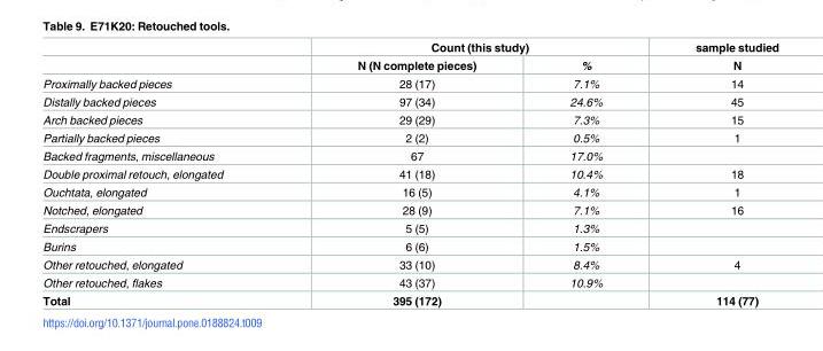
<table><thead><tr><td rowspan="2"></td><td colspan="2">Count (this study)</td><td rowspan="2">sample studied N</td></tr><tr><td>N (N complete pieces)</td><td>%</td></tr></thead><tbody><tr><td>Proximally backed pieces</td><td>28 (17)</td><td>7.1%</td><td>14</td></tr><tr><td>Distally backed pieces</td><td>97 (34)</td><td>24.6%</td><td>45</td></tr><tr><td>Arch backed pieces</td><td>29 (29)</td><td>7.3%</td><td>15</td></tr><tr><td>Partially backed pieces</td><td>2 (2)</td><td>0.5%</td><td>1</td></tr><tr><td>Backed fragments, miscellaneous</td><td>67</td><td>17.0%</td><td></td></tr><tr><td>Double proximal retouch, elongated</td><td>41 (18)</td><td>10.4%</td><td>18</td></tr><tr><td>Ouchtata, elongated</td><td>16 (5)</td><td>4.1%</td><td>1</td></tr><tr><td>Notched, elongated</td><td>28 (9)</td><td>7.1%</td><td>16</td></tr><tr><td>Endscrapers</td><td>5 (5)</td><td>1.3%</td><td></td></tr><tr><td>Burins</td><td>6 (6)</td><td>1.5%</td><td></td></tr><tr><td>Other retouched, elongated</td><td>33 (10)</td><td>8.4%</td><td>4</td></tr><tr><td>Other retouched, flakes</td><td>43 (37)</td><td>10.9%</td><td></td></tr><tr><td>Total</td><td>395 (172)</td><td></td><td>114 (77)</td></tr></tbody></table>